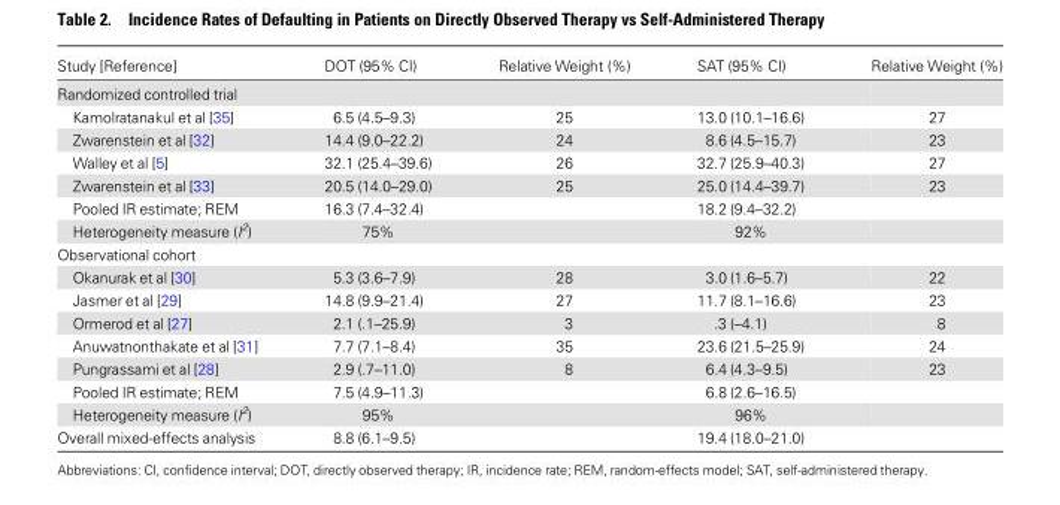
<table><thead><tr><td>Study [Reference]</td><td>DOT (95% CI)</td><td>Relative Weight (%)</td><td>SAT (95% CI)</td><td>Relative Weight (%)</td></tr></thead><tbody><tr><td colspan="5">Randomized controlled trial</td></tr><tr><td>Kamolratanakul et al [35]</td><td>6.5 (4.5–9.3)</td><td>25</td><td>13.0 (10.1–16.6)</td><td>27</td></tr><tr><td>Zwarenstein et al [32]</td><td>14.4 (9.0–22.2)</td><td>24</td><td>8.6 (4.5–15.7)</td><td>23</td></tr><tr><td>Walley et al [5]</td><td>32.1 (25.4–39.6)</td><td>26</td><td>32.7 (25.9–40.3)</td><td>27</td></tr><tr><td>Zwarenstein et al [33]</td><td>20.5 (14.0–29.0)</td><td>25</td><td>25.0 (14.4–39.7)</td><td>23</td></tr><tr><td>Pooled IR estimate; REM</td><td>16.3 (7.4–32.4)</td><td></td><td>18.2 (9.4–32.2)</td><td></td></tr><tr><td>Heterogeneity measure (I<sup>2</sup>)</td><td>75%</td><td></td><td>92%</td><td></td></tr><tr><td colspan="5">Observational cohort</td></tr><tr><td>Okanurak et al [30]</td><td>5.3 (3.6–7.9)</td><td>28</td><td>3.0 (1.6–5.7)</td><td>22</td></tr><tr><td>Jasmer et al [29]</td><td>14.8 (9.9–21.4)</td><td>27</td><td>11.7 (8.1–16.6)</td><td>23</td></tr><tr><td>Ormerod et al [27]</td><td>2.1 (.1–25.9)</td><td>3</td><td>.3 (–4.1)</td><td>8</td></tr><tr><td>Anuwatnonthakate et al [31]</td><td>7.7 (7.1–8.4)</td><td>35</td><td>23.6 (21.5–25.9)</td><td>24</td></tr><tr><td>Pungrassami et al [28]</td><td>2.9 (.7–11.0)</td><td>8</td><td>6.4 (4.3–9.5)</td><td>23</td></tr><tr><td>Pooled IR estimate; REM</td><td>7.5 (4.9–11.3)</td><td></td><td>6.8 (2.6–16.5)</td><td></td></tr><tr><td>Heterogeneity measure (I<sup>2</sup>)</td><td>95%</td><td></td><td>96%</td><td></td></tr><tr><td>Overall mixed-effects analysis</td><td>8.8 (6.1–9.5)</td><td></td><td>19.4 (18.0–21.0)</td><td></td></tr></tbody></table>